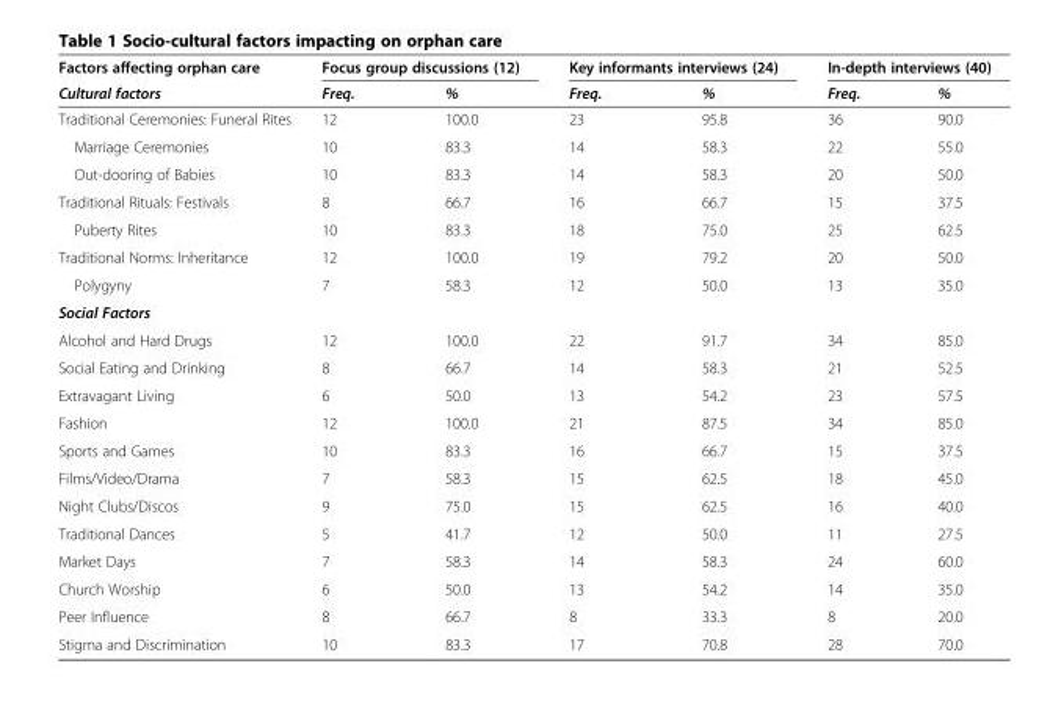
<table><thead><tr><td rowspan="2">Factors affecting orphan care Cultural factors</td><td colspan="2">Focus group discussions (12)</td><td colspan="2">Key informants interviews (24)</td><td colspan="2">In-depth interviews (40)</td></tr><tr><td>Freq.</td><td>%</td><td>Freq.</td><td>%</td><td>Freq.</td><td>%</td></tr></thead><tbody><tr><td>Traditional Ceremonies: Funeral Rites</td><td>12</td><td>100.0</td><td>23</td><td>95.8</td><td>36</td><td>90.0</td></tr><tr><td>Marriage Ceremonies</td><td>10</td><td>83.3</td><td>14</td><td>58.3</td><td>22</td><td>55.0</td></tr><tr><td>Out-dooring of Babies</td><td>10</td><td>83.3</td><td>14</td><td>58.3</td><td>20</td><td>50.0</td></tr><tr><td>Traditional Rituals: Festivals</td><td>8</td><td>66.7</td><td>16</td><td>66.7</td><td>15</td><td>37.5</td></tr><tr><td>Puberty Rites</td><td>10</td><td>83.3</td><td>18</td><td>75.0</td><td>25</td><td>62.5</td></tr><tr><td>Traditional Norms: Inheritance</td><td>12</td><td>100.0</td><td>19</td><td>79.2</td><td>20</td><td>50.0</td></tr><tr><td>Polygyny</td><td>7</td><td>58.3</td><td>12</td><td>50.0</td><td>13</td><td>35.0</td></tr><tr><td colspan="7">Social Factors</td></tr><tr><td>Alcohol and Hard Drugs</td><td>12</td><td>100.0</td><td>22</td><td>91.7</td><td>34</td><td>85.0</td></tr><tr><td>Social Eating and Drinking</td><td>8</td><td>66.7</td><td>14</td><td>58.3</td><td>21</td><td>52.5</td></tr><tr><td>Extravagant Living</td><td>6</td><td>50.0</td><td>13</td><td>54.2</td><td>23</td><td>57.5</td></tr><tr><td>Fashion</td><td>12</td><td>100.0</td><td>21</td><td>87.5</td><td>34</td><td>85.0</td></tr><tr><td>Sports and Games</td><td>10</td><td>83.3</td><td>16</td><td>66.7</td><td>15</td><td>37.5</td></tr><tr><td>Films/Video/Drama</td><td>7</td><td>58.3</td><td>15</td><td>62.5</td><td>18</td><td>45.0</td></tr><tr><td>Night Clubs/Discos</td><td>9</td><td>75.0</td><td>15</td><td>62.5</td><td>16</td><td>40.0</td></tr><tr><td>Traditional Dances</td><td>5</td><td>41.7</td><td>12</td><td>50.0</td><td>11</td><td>27.5</td></tr><tr><td>Market Days</td><td>7</td><td>58.3</td><td>14</td><td>58.3</td><td>24</td><td>60.0</td></tr><tr><td>Church Worship</td><td>6</td><td>50.0</td><td>13</td><td>54.2</td><td>14</td><td>35.0</td></tr><tr><td>Peer Influence</td><td>8</td><td>66.7</td><td>8</td><td>33.3</td><td>8</td><td>20.0</td></tr><tr><td>Stigma and Discrimination</td><td>10</td><td>83.3</td><td>17</td><td>70.8</td><td>28</td><td>70.0</td></tr></tbody></table>